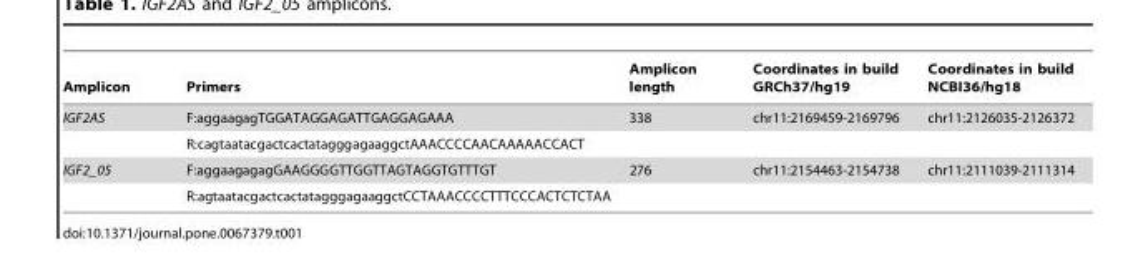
<table><thead><tr><td>Amplicon</td><td>Primers</td><td>Amplicon length</td><td>Coordinates in build GRCh37/hg19</td><td>Coordinates in build NCBI36/hg18</td></tr></thead><tbody><tr><td rowspan="2">IGF2AS</td><td>F:aggaagagTGGATAGGAGATTGAGGAGAAA</td><td>338</td><td>chr11:2169459-2169796</td><td>chr11:2126035-2126372</td></tr><tr><td>R:cagtaatacgactcactatagggagaaggctAAACCCCAACAAAAACCACT</td><td></td><td></td><td></td></tr><tr><td rowspan="2">IGF2_05</td><td>F:aggaagagagGAAGGGGTTGGTTAGTAGGTGTTTGT</td><td>276</td><td>chr11:2154463-2154738</td><td>chr11:2111039-2111314</td></tr><tr><td>R:agtaatacgactcactatagggagaaggctCCTAAACCCCTTTCCCACTCTCTAA</td><td></td><td></td><td></td></tr></tbody></table>